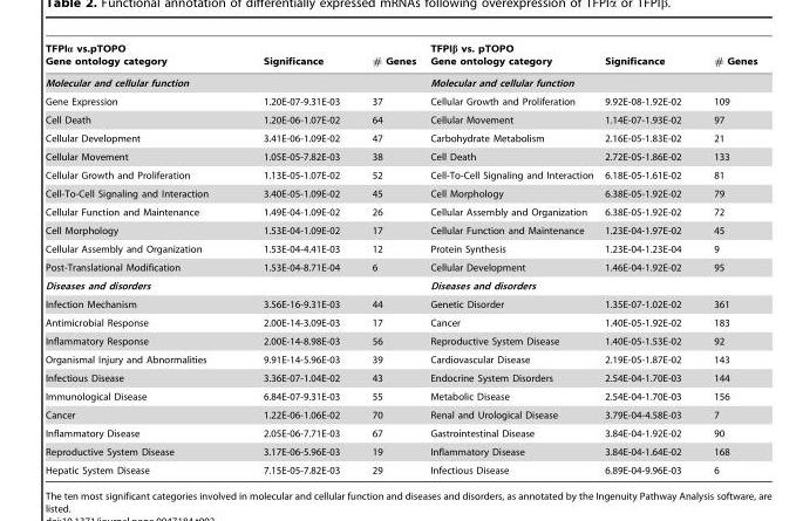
<table><thead><tr><td>TFPIα vs.pTOPO Gene ontology category</td><td>Significance</td><td># Genes</td><td>TFPIβ vs. pTOPO Gene ontology category</td><td>Significance</td><td># Genes</td></tr></thead><tbody><tr><td>Molecular and cellular function</td><td></td><td></td><td>Molecular and cellular function</td><td></td><td></td></tr><tr><td>Gene Expression</td><td>1.20E-07-9.31E-03</td><td>37</td><td>Cellular Growth and Proliferation</td><td>9.92E-08-1.92E-02</td><td>109</td></tr><tr><td>Cell Death</td><td>1.20E-06-1.07E-02</td><td>64</td><td>Cellular Movement</td><td>1.14E-07-1.93E-02</td><td>97</td></tr><tr><td>Cellular Development</td><td>3.41E-06-1.09E-02</td><td>47</td><td>Carbohydrate Metabolism</td><td>2.16E-05-1.83E-02</td><td>21</td></tr><tr><td>Cellular Movement</td><td>1.05E-05-7.82E-03</td><td>38</td><td>Cell Death</td><td>2.72E-05-1.86E-02</td><td>133</td></tr><tr><td>Cellular Growth and Proliferation</td><td>1.13E-05-1.07E-02</td><td>52</td><td>Cell-To-Cell Signaling and Interaction</td><td>6.18E-05-1.61E-02</td><td>81</td></tr><tr><td>Cell-To-Cell Signaling and Interaction</td><td>3.40E-05-1.09E-02</td><td>45</td><td>Cell Morphology</td><td>6.38E-05-1.92E-02</td><td>79</td></tr><tr><td>Cellular Function and Maintenance</td><td>1.49E-04-1.09E-02</td><td>26</td><td>Cellular Assembly and Organization</td><td>6.38E-05-1.92E-02</td><td>72</td></tr><tr><td>Cell Morphology</td><td>1.53E-04-1.09E-02</td><td>17</td><td>Cellular Function and Maintenance</td><td>1.23E-04-1.97E-02</td><td>45</td></tr><tr><td>Cellular Assembly and Organization</td><td>1.53E-04-4.41E-03</td><td>12</td><td>Protein Synthesis</td><td>1.23E-04-1.23E-04</td><td>9</td></tr><tr><td>Post-Translational Modification</td><td>1.53E-04-8.71E-04</td><td>6</td><td>Cellular Development</td><td>1.46E-04-1.92E-02</td><td>95</td></tr><tr><td>Diseases and disorders</td><td></td><td></td><td>Diseases and disorders</td><td></td><td></td></tr><tr><td>Infection Mechanism</td><td>3.56E-16-9.31E-03</td><td>44</td><td>Genetic Disorder</td><td>1.35E-07-1.02E-02</td><td>361</td></tr><tr><td>Antimicrobial Response</td><td>2.00E-14-3.09E-03</td><td>17</td><td>Cancer</td><td>1.40E-05-1.92E-02</td><td>183</td></tr><tr><td>Inflammatory Response</td><td>2.00E-14-8.98E-03</td><td>56</td><td>Reproductive System Disease</td><td>1.40E-05-1.53E-02</td><td>92</td></tr><tr><td>Organismal Injury and Abnormalities</td><td>9.91E-14-5.96E-03</td><td>39</td><td>Cardiovascular Disease</td><td>2.19E-05-1.87E-02</td><td>143</td></tr><tr><td>Infectious Disease</td><td>3.36E-07-1.04E-02</td><td>43</td><td>Endocrine System Disorders</td><td>2.54E-04-1.70E-03</td><td>144</td></tr><tr><td>Immunological Disease</td><td>6.84E-07-9.31E-03</td><td>55</td><td>Metabolic Disease</td><td>2.54E-04-1.70E-03</td><td>156</td></tr><tr><td>Cancer</td><td>1.22E-06-1.06E-02</td><td>70</td><td>Renal and Urological Disease</td><td>3.79E-04-4.58E-03</td><td>7</td></tr><tr><td>Inflammatory Disease</td><td>2.05E-06-7.71E-03</td><td>67</td><td>Gastrointestinal Disease</td><td>3.84E-04-1.92E-02</td><td>90</td></tr><tr><td>Reproductive System Disease</td><td>3.17E-06-5.96E-03</td><td>19</td><td>Inflammatory Disease</td><td>3.84E-04-1.64E-02</td><td>168</td></tr><tr><td>Hepatic System Disease</td><td>7.15E-05-7.82E-03</td><td>29</td><td>Infectious Disease</td><td>6.89E-04-9.96E-03</td><td>6</td></tr></tbody></table>